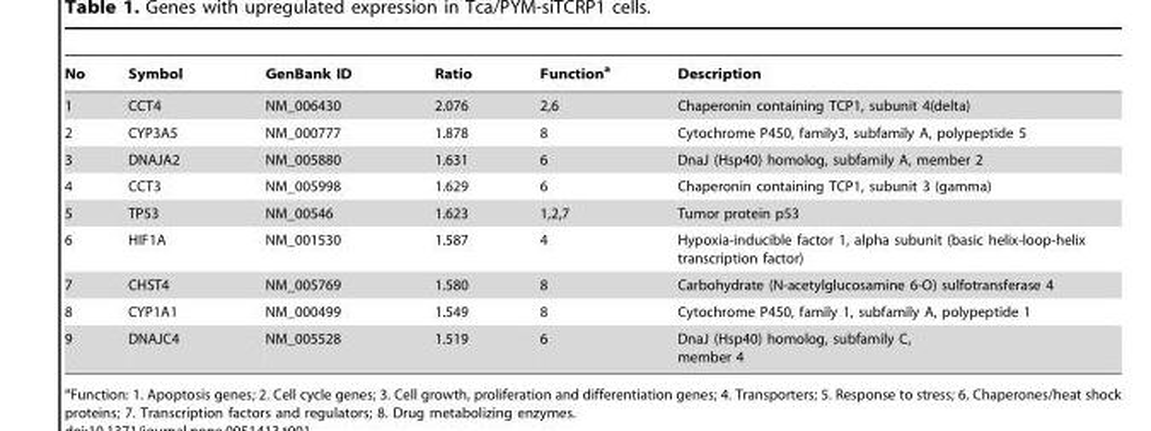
<table><thead><tr><td>No</td><td>Symbol</td><td>GenBank ID</td><td>Ratio</td><td>Function<sup>a</sup></td><td>Description</td></tr></thead><tbody><tr><td>1</td><td>CCT4</td><td>NM_006430</td><td>2.076</td><td>2,6</td><td>Chaperonin containing TCP1, subunit 4(delta)</td></tr><tr><td>2</td><td>CYP3A5</td><td>NM_000777</td><td>1.878</td><td>8</td><td>Cytochrome P450, family3, subfamily A, polypeptide 5</td></tr><tr><td>3</td><td>DNAJA2</td><td>NM_005880</td><td>1.631</td><td>6</td><td>DnaJ (Hsp40) homolog, subfamily A, member 2</td></tr><tr><td>4</td><td>CCT3</td><td>NM_005998</td><td>1.629</td><td>6</td><td>Chaperonin containing TCP1, subunit 3 (gamma)</td></tr><tr><td>5</td><td>TP53</td><td>NM_00546</td><td>1.623</td><td>1,2,7</td><td>Tumor protein p53</td></tr><tr><td>6</td><td>HIF1A</td><td>NM_001530</td><td>1.587</td><td>4</td><td>Hypoxia-inducible factor 1, alpha subunit (basic helix-loop-helix transcription factor)</td></tr><tr><td>7</td><td>CHST4</td><td>NM_005769</td><td>1.580</td><td>8</td><td>Carbohydrate (N-acetylglucosamine 6-O) sulfotransferase 4</td></tr><tr><td>8</td><td>CYP1A1</td><td>NM_000499</td><td>1.549</td><td>8</td><td>Cytochrome P450, family 1, subfamily A, polypeptide 1</td></tr><tr><td>9</td><td>DNAJC4</td><td>NM_005528</td><td>1.519</td><td>6</td><td>DnaJ (Hsp40) homolog, subfamily C, member 4</td></tr></tbody></table>